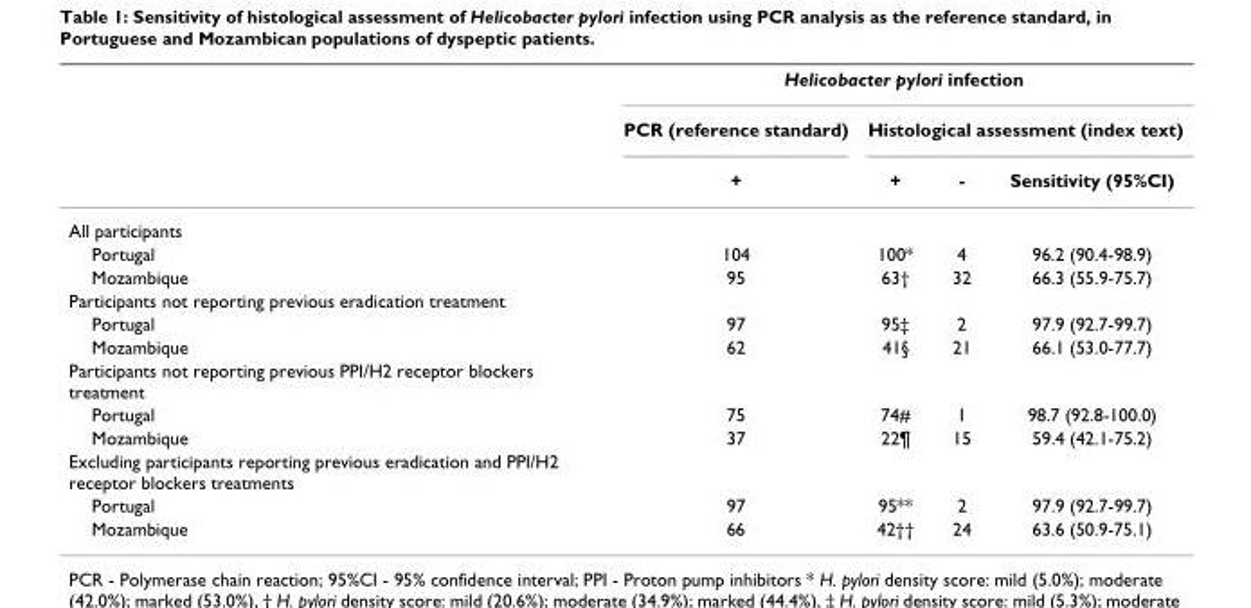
<table><thead><tr><td rowspan="3"></td><td colspan="4">Helicobacter pylori infection</td></tr><tr><td rowspan="2">PCR (reference standard) +</td><td colspan="3">Histological assessment (index text)</td></tr><tr><td>+</td><td>-</td><td>Sensitivity (95%CI)</td></tr></thead><tbody><tr><td colspan="5">All participants</td></tr><tr><td>Portugal</td><td>104</td><td>100*</td><td>4</td><td>96.2 (90.4-98.9)</td></tr><tr><td>Mozambique</td><td>95</td><td>63†</td><td>32</td><td>66.3 (55.9-75.7)</td></tr><tr><td colspan="5">Participants not reporting previous eradication treatment</td></tr><tr><td>Portugal</td><td>97</td><td>95‡</td><td>2</td><td>97.9 (92.7-99.7)</td></tr><tr><td>Mozambique</td><td>62</td><td>41§</td><td>21</td><td>66.1 (53.0-77.7)</td></tr><tr><td colspan="5">Participants not reporting previous PPI/H2 receptor blockers treatment</td></tr><tr><td>Portugal</td><td>75</td><td>74#</td><td>1</td><td>98.7 (92.8-100.0)</td></tr><tr><td>Mozambique</td><td>37</td><td>22¶</td><td>15</td><td>59.4 (42.1-75.2)</td></tr><tr><td colspan="5">Excluding participants reporting previous eradication and PPI/H2 receptor blockers treatments</td></tr><tr><td>Portugal</td><td>97</td><td>95**</td><td>2</td><td>97.9 (92.7-99.7)</td></tr><tr><td>Mozambique</td><td>66</td><td>42††</td><td>24</td><td>63.6 (50.9-75.1)</td></tr></tbody></table>